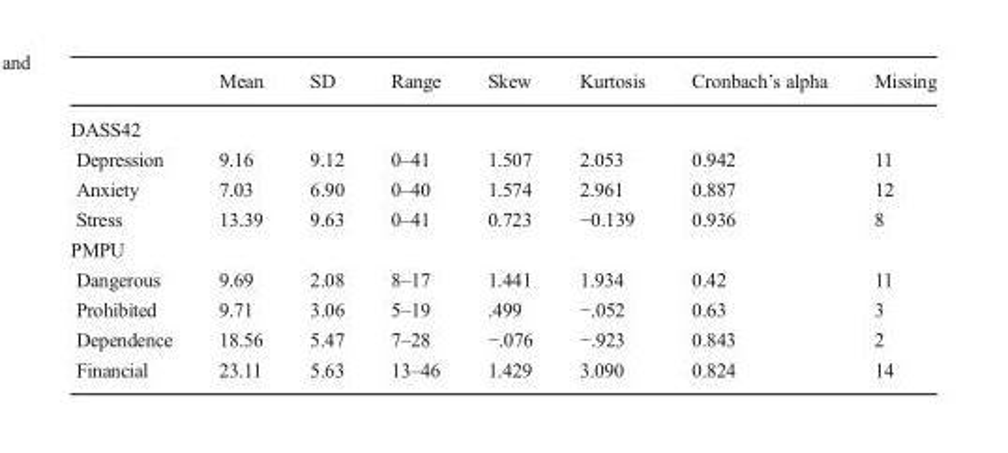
<table><thead><tr><td></td><td>Mean</td><td>SD</td><td>Range</td><td>Skew</td><td>Kurtosis</td><td>Cronbach’s alpha</td><td>Missing</td></tr></thead><tbody><tr><td colspan="8">DASS42</td></tr><tr><td>Depression</td><td>9.16</td><td>9.12</td><td>0–41</td><td>1.507</td><td>2.053</td><td>0.942</td><td>11</td></tr><tr><td>Anxiety</td><td>7.03</td><td>6.90</td><td>0–40</td><td>1.574</td><td>2.961</td><td>0.887</td><td>12</td></tr><tr><td>Stress</td><td>13.39</td><td>9.63</td><td>0–41</td><td>0.723</td><td>−0.139</td><td>0.936</td><td>8</td></tr><tr><td colspan="8">PMPU</td></tr><tr><td>Dangerous</td><td>9.69</td><td>2.08</td><td>8–17</td><td>1.441</td><td>1.934</td><td>0.42</td><td>11</td></tr><tr><td>Prohibited</td><td>9.71</td><td>3.06</td><td>5–19</td><td>.499</td><td>−.052</td><td>0.63</td><td>3</td></tr><tr><td>Dependence</td><td>18.56</td><td>5.47</td><td>7–28</td><td>−.076</td><td>−.923</td><td>0.843</td><td>2</td></tr><tr><td>Financial</td><td>23.11</td><td>5.63</td><td>13–46</td><td>1.429</td><td>3.090</td><td>0.824</td><td>14</td></tr></tbody></table>